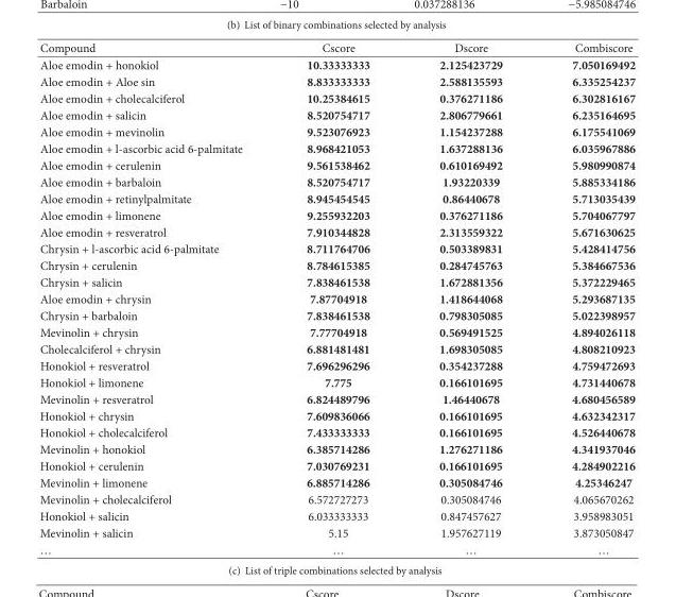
<table><thead><tr><td>Compound</td><td>Cscore</td><td>Dscore</td><td>Combiscore</td></tr></thead><tbody><tr><td>Aloe emodin + honokiol</td><td>10.33333333</td><td>2.125423729</td><td>7.050169492</td></tr><tr><td>Aloe emodin + Aloe sin</td><td>8.833333333</td><td>2.588135593</td><td>6.335254237</td></tr><tr><td>Aloe emodin + cholecalciferol</td><td>10.25384615</td><td>0.376271186</td><td>6.302816167</td></tr><tr><td>Aloe emodin + salicin</td><td>8.520754717</td><td>2.806779661</td><td>6.235164695</td></tr><tr><td>Aloe emodin + mevinolin</td><td>9.523076923</td><td>1.154237288</td><td>6.175541069</td></tr><tr><td>Aloe emodin + l-ascorbic acid 6-palmitate</td><td>8.968421053</td><td>1.637288136</td><td>6.035967886</td></tr><tr><td>Aloe emodin + cerulenin</td><td>9.561538462</td><td>0.610169492</td><td>5.980990874</td></tr><tr><td>Aloe emodin + barbaloin</td><td>8.520754717</td><td>1.93220339</td><td>5.885334186</td></tr><tr><td>Aloe emodin + retinylpalmitate</td><td>8.945454545</td><td>0.86440678</td><td>5.713035439</td></tr><tr><td>Aloe emodin + limonene</td><td>9.255932203</td><td>0.376271186</td><td>5.704067797</td></tr><tr><td>Aloe emodin + resveratrol</td><td>7.910344828</td><td>2.313559322</td><td>5.671630625</td></tr><tr><td>Chrysin + l-ascorbic acid 6-palmitate</td><td>8.711764706</td><td>0.503389831</td><td>5.428414756</td></tr><tr><td>Chrysin + cerulenin</td><td>8.784615385</td><td>0.284745763</td><td>5.384667536</td></tr><tr><td>Chrysin + salicin</td><td>7.838461538</td><td>1.672881356</td><td>5.372229465</td></tr><tr><td>Aloe emodin + chrysin</td><td>7.87704918</td><td>1.418644068</td><td>5.293687135</td></tr><tr><td>Chrysin + barbaloin</td><td>7.838461538</td><td>0.798305085</td><td>5.022398957</td></tr><tr><td>Mevinolin + chrysin</td><td>7.77704918</td><td>0.569491525</td><td>4.894026118</td></tr><tr><td>Cholecalciferol + chrysin</td><td>6.881481481</td><td>1.698305085</td><td>4.808210923</td></tr><tr><td>Honokiol + resveratrol</td><td>7.696296296</td><td>0.354237288</td><td>4.759472693</td></tr><tr><td>Honokiol + limonene</td><td>7.775</td><td>0.166101695</td><td>4.731440678</td></tr><tr><td>Mevinolin + resveratrol</td><td>6.824489796</td><td>1.46440678</td><td>4.680456589</td></tr><tr><td>Honokiol + chrysin</td><td>7.609836066</td><td>0.166101695</td><td>4.632342317</td></tr><tr><td>Honokiol + cholecalciferol</td><td>7.433333333</td><td>0.166101695</td><td>4.526440678</td></tr><tr><td>Mevinolin + honokiol</td><td>6.385714286</td><td>1.276271186</td><td>4.341937046</td></tr><tr><td>Honokiol + cerulenin</td><td>7.030769231</td><td>0.166101695</td><td>4.284902216</td></tr><tr><td>Mevinolin + limonene</td><td>6.885714286</td><td>0.305084746</td><td>4.25346247</td></tr><tr><td>Mevinolin + cholecalciferol</td><td>6.572727273</td><td>0.305084746</td><td>4.065670262</td></tr><tr><td>Honokiol + salicin</td><td>6.033333333</td><td>0.847457627</td><td>3.958983051</td></tr><tr><td>Mevinolin + salicin</td><td>5.15</td><td>1.957627119</td><td>3.873050847</td></tr><tr><td>…</td><td>…</td><td>…</td><td>…</td></tr></tbody></table>